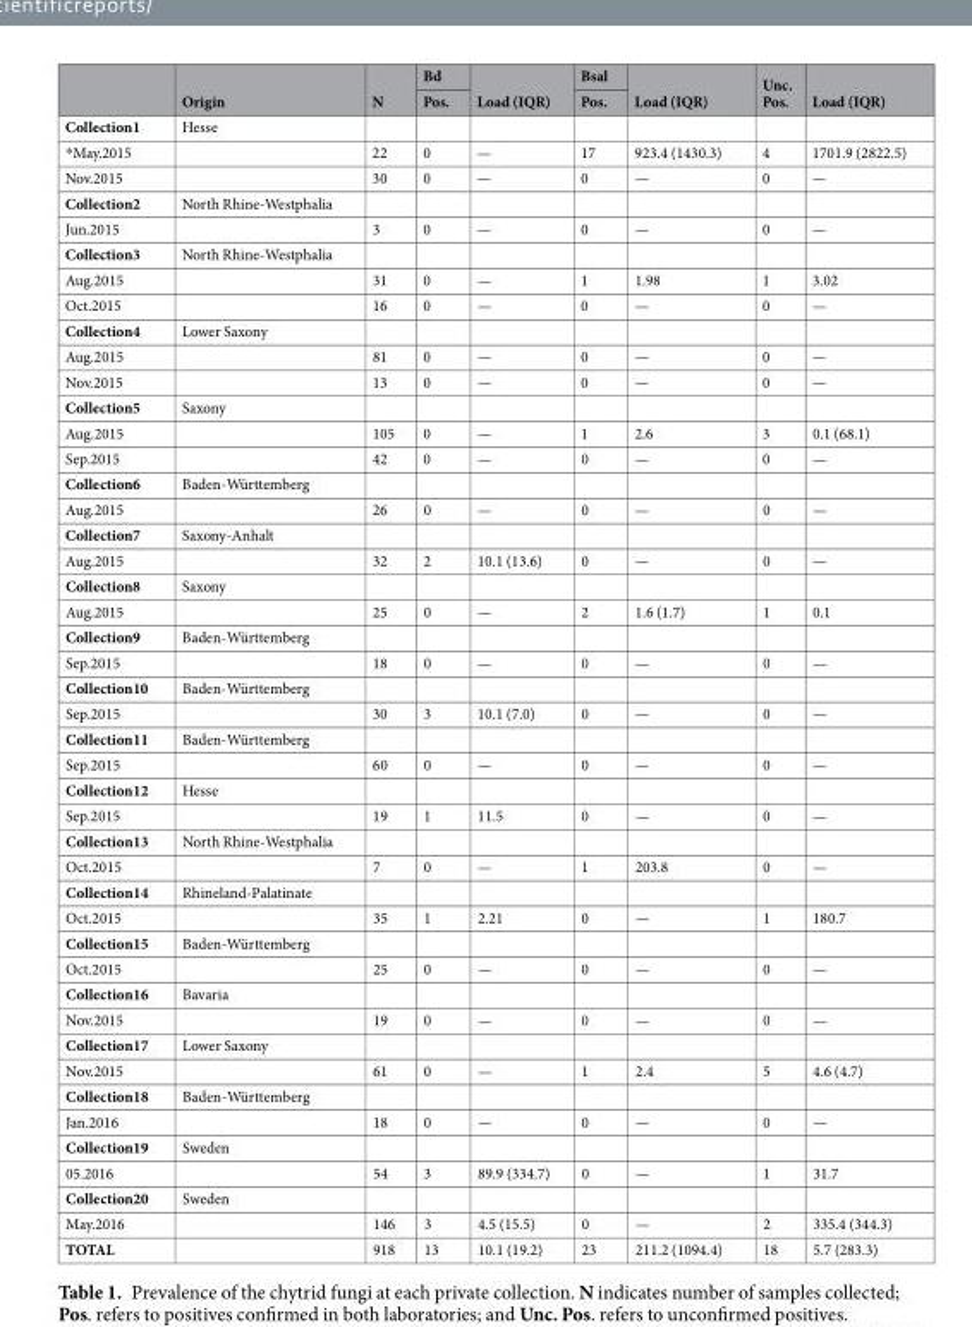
<table><thead><tr><td rowspan="2"></td><td rowspan="2">Origin</td><td rowspan="2">N</td><td rowspan="2">Bd Pos.</td><td rowspan="2">Load (IQR)</td><td rowspan="2">Bsal Pos.</td><td rowspan="2">Load (IQR)</td><td rowspan="2">Unc. Pos.</td><td rowspan="2">Load (IQR)</td></tr><tr></tr></thead><tbody><tr><td>Collection1</td><td>Hesse</td><td></td><td></td><td></td><td></td><td></td><td></td><td></td></tr><tr><td>*May.2015</td><td></td><td>22</td><td>0</td><td>—</td><td>17</td><td>923.4 (1430.3)</td><td>4</td><td>1701.9 (2822.5)</td></tr><tr><td>Nov.2015</td><td></td><td>30</td><td>0</td><td>—</td><td>0</td><td>—</td><td>0</td><td>—</td></tr><tr><td>Collection2</td><td>North Rhine-Westphalia</td><td></td><td></td><td></td><td></td><td></td><td></td><td></td></tr><tr><td>Jun.2015</td><td></td><td>3</td><td>0</td><td>—</td><td>0</td><td>—</td><td>0</td><td>—</td></tr><tr><td>Collection3</td><td>North Rhine-Westphalia</td><td></td><td></td><td></td><td></td><td></td><td></td><td></td></tr><tr><td>Aug.2015</td><td></td><td>31</td><td>0</td><td>—</td><td>1</td><td>1.98</td><td>1</td><td>3.02</td></tr><tr><td>Oct.2015</td><td></td><td>16</td><td>0</td><td>—</td><td>0</td><td>—</td><td>0</td><td>—</td></tr><tr><td>Collection4</td><td>Lower Saxony</td><td></td><td></td><td></td><td></td><td></td><td></td><td></td></tr><tr><td>Aug.2015</td><td></td><td>81</td><td>0</td><td>—</td><td>0</td><td>—</td><td>0</td><td>—</td></tr><tr><td>Nov.2015</td><td></td><td>13</td><td>0</td><td>—</td><td>0</td><td>—</td><td>0</td><td>—</td></tr><tr><td>Collection5</td><td>Saxony</td><td></td><td></td><td></td><td></td><td></td><td></td><td></td></tr><tr><td>Aug.2015</td><td></td><td>105</td><td>0</td><td>—</td><td>1</td><td>2.6</td><td>3</td><td>0.1 (68.1)</td></tr><tr><td>Sep.2015</td><td></td><td>42</td><td>0</td><td>—</td><td>0</td><td>—</td><td>0</td><td>—</td></tr><tr><td>Collection6</td><td>Baden-Württemberg</td><td></td><td></td><td></td><td></td><td></td><td></td><td></td></tr><tr><td>Aug.2015</td><td></td><td>26</td><td>0</td><td>—</td><td>0</td><td>—</td><td>0</td><td>—</td></tr><tr><td>Collection7</td><td>Saxony-Anhalt</td><td></td><td></td><td></td><td></td><td></td><td></td><td></td></tr><tr><td>Aug.2015</td><td></td><td>32</td><td>2</td><td>10.1 (13.6)</td><td>0</td><td>—</td><td>0</td><td>—</td></tr><tr><td>Collection8</td><td>Saxony</td><td></td><td></td><td></td><td></td><td></td><td></td><td></td></tr><tr><td>Aug.2015</td><td></td><td>25</td><td>0</td><td>—</td><td>2</td><td>1.6 (1.7)</td><td>1</td><td>0.1</td></tr><tr><td>Collection9</td><td>Baden-Württemberg</td><td></td><td></td><td></td><td></td><td></td><td></td><td></td></tr><tr><td>Sep.2015</td><td></td><td>18</td><td>0</td><td>—</td><td>0</td><td>—</td><td>0</td><td>—</td></tr><tr><td>Collection10</td><td>Baden-Württemberg</td><td></td><td></td><td></td><td></td><td></td><td></td><td></td></tr><tr><td>Sep.2015</td><td></td><td>30</td><td>3</td><td>10.1 (7.0)</td><td>0</td><td>—</td><td>0</td><td>—</td></tr><tr><td>Collection11</td><td>Baden-Württemberg</td><td></td><td></td><td></td><td></td><td></td><td></td><td></td></tr><tr><td>Sep.2015</td><td></td><td>60</td><td>0</td><td>—</td><td>0</td><td>—</td><td>0</td><td>—</td></tr><tr><td>Collection12</td><td>Hesse</td><td></td><td></td><td></td><td></td><td></td><td></td><td></td></tr><tr><td>Sep.2015</td><td></td><td>19</td><td>1</td><td>11.5</td><td>0</td><td>—</td><td>0</td><td>—</td></tr><tr><td>Collection13</td><td>North Rhine-Westphalia</td><td></td><td></td><td></td><td></td><td></td><td></td><td></td></tr><tr><td>Oct.2015</td><td></td><td>7</td><td>0</td><td>—</td><td>1</td><td>203.8</td><td>0</td><td>—</td></tr><tr><td>Collection14</td><td>Rhineland-Palatinate</td><td></td><td></td><td></td><td></td><td></td><td></td><td></td></tr><tr><td>Oct.2015</td><td></td><td>35</td><td>1</td><td>2.21</td><td>0</td><td>—</td><td>1</td><td>180.7</td></tr><tr><td>Collection15</td><td>Baden-Württemberg</td><td></td><td></td><td></td><td></td><td></td><td></td><td></td></tr><tr><td>Oct.2015</td><td></td><td>25</td><td>0</td><td>—</td><td>0</td><td>—</td><td>0</td><td>—</td></tr><tr><td>Collection16</td><td>Bavaria</td><td></td><td></td><td></td><td></td><td></td><td></td><td></td></tr><tr><td>Nov.2015</td><td></td><td>19</td><td>0</td><td>—</td><td>0</td><td>—</td><td>0</td><td>—</td></tr><tr><td>Collection17</td><td>Lower Saxony</td><td></td><td></td><td></td><td></td><td></td><td></td><td></td></tr><tr><td>Nov.2015</td><td></td><td>61</td><td>0</td><td>—</td><td>1</td><td>2.4</td><td>5</td><td>4.6 (4.7)</td></tr><tr><td>Collection18</td><td>Baden-Württemberg</td><td></td><td></td><td></td><td></td><td></td><td></td><td></td></tr><tr><td>Jan.2016</td><td></td><td>18</td><td>0</td><td>—</td><td>0</td><td>—</td><td>0</td><td>—</td></tr><tr><td>Collection19</td><td>Sweden</td><td></td><td></td><td></td><td></td><td></td><td></td><td></td></tr><tr><td>05.2016</td><td></td><td>54</td><td>3</td><td>89.9 (334.7)</td><td>0</td><td>—</td><td>1</td><td>31.7</td></tr><tr><td>Collection20</td><td>Sweden</td><td></td><td></td><td></td><td></td><td></td><td></td><td></td></tr><tr><td>May.2016</td><td></td><td>146</td><td>3</td><td>4.5 (15.5)</td><td>0</td><td>—</td><td>2</td><td>335.4 (344.3)</td></tr><tr><td>TOTAL</td><td></td><td>918</td><td>13</td><td>10.1 (19.2)</td><td>23</td><td>211.2 (1094.4)</td><td>18</td><td>5.7 (283.3)</td></tr></tbody></table>